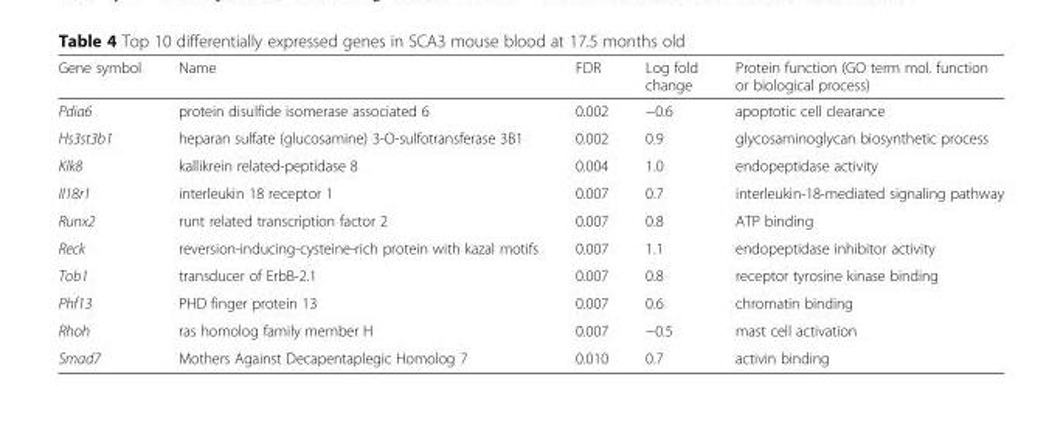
<table><thead><tr><td>Gene symbol</td><td>Name</td><td>FDR</td><td>Log fold change</td><td>Protein function (GO term mol. function or biological process)</td></tr></thead><tbody><tr><td>Pdia6</td><td>protein disulfide isomerase associated 6</td><td>0.002</td><td>−0.6</td><td>apoptotic cell clearance</td></tr><tr><td>Hs3st3b1</td><td>heparan sulfate (glucosamine) 3-O-sulfotransferase 3B1</td><td>0.002</td><td>0.9</td><td>glycosaminoglycan biosynthetic process</td></tr><tr><td>Klk8</td><td>kallikrein related-peptidase 8</td><td>0.004</td><td>1.0</td><td>endopeptidase activity</td></tr><tr><td>Il18r1</td><td>interleukin 18 receptor 1</td><td>0.007</td><td>0.7</td><td>interleukin-18-mediated signaling pathway</td></tr><tr><td>Runx2</td><td>runt related transcription factor 2</td><td>0.007</td><td>0.8</td><td>ATP binding</td></tr><tr><td>Reck</td><td>reversion-inducing-cysteine-rich protein with kazal motifs</td><td>0.007</td><td>1.1</td><td>endopeptidase inhibitor activity</td></tr><tr><td>Tob1</td><td>transducer of ErbB-2.1</td><td>0.007</td><td>0.8</td><td>receptor tyrosine kinase binding</td></tr><tr><td>Phf13</td><td>PHD finger protein 13</td><td>0.007</td><td>0.6</td><td>chromatin binding</td></tr><tr><td>Rhoh</td><td>ras homolog family member H</td><td>0.007</td><td>−0.5</td><td>mast cell activation</td></tr><tr><td>Smad7</td><td>Mothers Against Decapentaplegic Homolog 7</td><td>0.010</td><td>0.7</td><td>activin binding</td></tr></tbody></table>